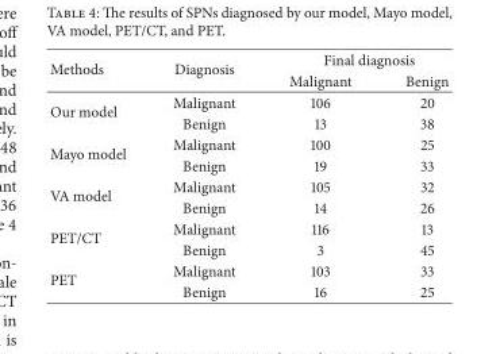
<table><thead><tr><td rowspan="2">Methods</td><td rowspan="2">Diagnosis</td><td colspan="2">Final diagnosis</td></tr><tr><td>Malignant</td><td>Benign</td></tr></thead><tbody><tr><td rowspan="2">Our model</td><td>Malignant</td><td>106</td><td>20</td></tr><tr><td>Benign</td><td>13</td><td>38</td></tr><tr><td rowspan="2">Mayo model</td><td>Malignant</td><td>100</td><td>25</td></tr><tr><td>Benign</td><td>19</td><td>33</td></tr><tr><td rowspan="2">VA model</td><td>Malignant</td><td>105</td><td>32</td></tr><tr><td>Benign</td><td>14</td><td>26</td></tr><tr><td rowspan="2">PET/CT</td><td>Malignant</td><td>116</td><td>13</td></tr><tr><td>Benign</td><td>3</td><td>45</td></tr><tr><td rowspan="2">PET</td><td>Malignant</td><td>103</td><td>33</td></tr><tr><td>Benign</td><td>16</td><td>25</td></tr></tbody></table>